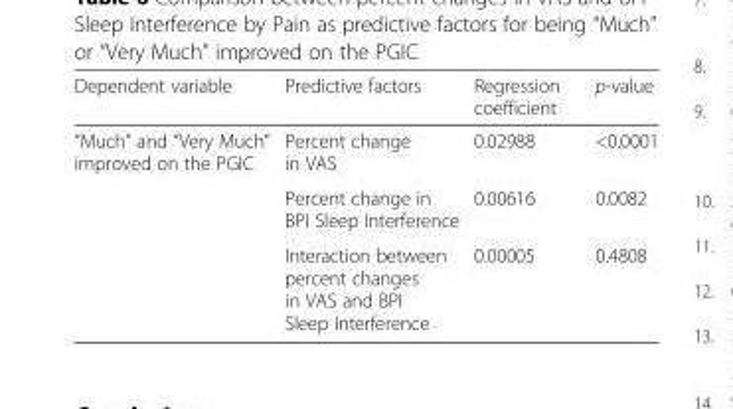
<table><thead><tr><td>Dependent variable</td><td>Predictive factors</td><td>Regression coefficient</td><td>p-value</td></tr></thead><tbody><tr><td rowspan="3">“Much” and “Very Much” improved on the PGIC</td><td>Percent change in VAS</td><td>0.02988</td><td>&lt;0.0001</td></tr><tr><td>Percent change in BPI Sleep Interference</td><td>0.00616</td><td>0.0082</td></tr><tr><td>Interaction between percent changes in VAS and BPI Sleep Interference</td><td>0.00005</td><td>0.4808</td></tr></tbody></table>